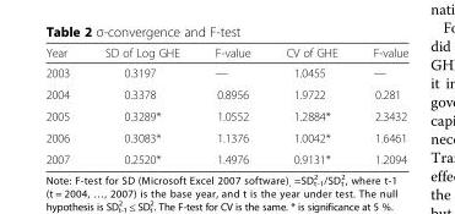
<table><thead><tr><td>Year</td><td>SD of Log GHE</td><td>F-value</td><td>CV of GHE</td><td>F-value</td></tr></thead><tbody><tr><td>2003</td><td>0.3197</td><td>—</td><td>1.0455</td><td>—</td></tr><tr><td>2004</td><td>0.3378</td><td>0.8956</td><td>1.9722</td><td>0.281</td></tr><tr><td>2005</td><td>0.3289*</td><td>1.0552</td><td>1.2884*</td><td>2.3432</td></tr><tr><td>2006</td><td>0.3083*</td><td>1.1376</td><td>1.0042*</td><td>1.6461</td></tr><tr><td>2007</td><td>0.2520*</td><td>1.4976</td><td>0.9131*</td><td>1.2094</td></tr></tbody></table>